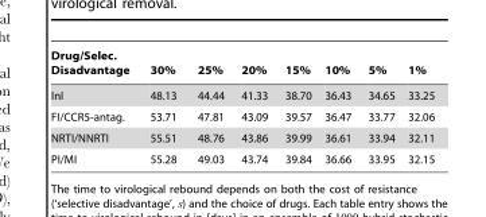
<table><thead><tr><td>Drug/Selec. Disadvantage</td><td>30%</td><td>25%</td><td>20%</td><td>15%</td><td>10%</td><td>5%</td><td>1%</td></tr></thead><tbody><tr><td>InI</td><td>48.13</td><td>44.44</td><td>41.33</td><td>38.70</td><td>36.43</td><td>34.65</td><td>33.25</td></tr><tr><td>FI/CCR5-antag.</td><td>53.71</td><td>47.81</td><td>43.09</td><td>39.57</td><td>36.47</td><td>33.77</td><td>32.06</td></tr><tr><td>NRTI/NNRTI</td><td>55.51</td><td>48.76</td><td>43.86</td><td>39.99</td><td>36.61</td><td>33.94</td><td>32.11</td></tr><tr><td>PI/MI</td><td>55.28</td><td>49.03</td><td>43.74</td><td>39.84</td><td>36.66</td><td>33.95</td><td>32.15</td></tr></tbody></table>